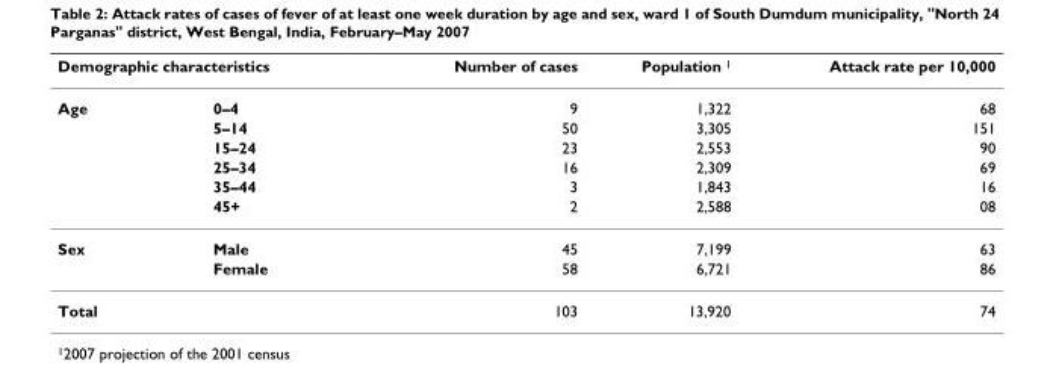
<table><thead><tr><td colspan="2">Demographic characteristics</td><td rowspan="2">Number of cases 9</td><td rowspan="2">Population <sup>1</sup> 1,322</td><td rowspan="2">Attack rate per 10,000 68</td></tr><tr><td>Age</td><td>0–4</td></tr></thead><tbody><tr><td></td><td>5–14</td><td>50</td><td>3,305</td><td>151</td></tr><tr><td></td><td>15–24</td><td>23</td><td>2,553</td><td>90</td></tr><tr><td></td><td>25–34</td><td>16</td><td>2,309</td><td>69</td></tr><tr><td></td><td>35–44</td><td>3</td><td>1,843</td><td>16</td></tr><tr><td></td><td>45+</td><td>2</td><td>2,588</td><td>08</td></tr><tr><td rowspan="2">Sex</td><td>Male</td><td>45</td><td>7,199</td><td>63</td></tr><tr><td>Female</td><td>58</td><td>6,721</td><td>86</td></tr><tr><td>Total</td><td></td><td>103</td><td>13,920</td><td>74</td></tr></tbody></table>